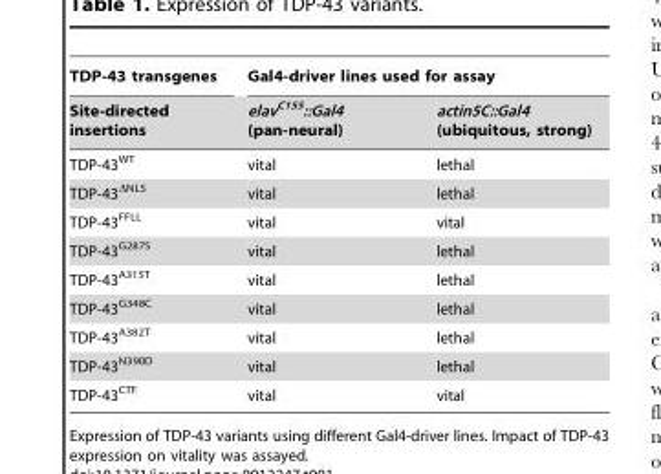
<table><thead><tr><td rowspan="2">TDP-43 transgenes Site-directed insertions</td><td colspan="2">Gal4-driver lines used for assay</td></tr><tr><td>elav<sup>C155</sup>::Gal4 (pan-neural)</td><td>actin5C::Gal4 (ubiquitous, strong)</td></tr></thead><tbody><tr><td>TDP-43<sup>WT</sup></td><td>vital</td><td>lethal</td></tr><tr><td>TDP-43<sup>ΔNLS</sup></td><td>vital</td><td>lethal</td></tr><tr><td>TDP-43<sup>FFLL</sup></td><td>vital</td><td>vital</td></tr><tr><td>TDP-43<sup>G287S</sup></td><td>vital</td><td>lethal</td></tr><tr><td>TDP-43<sup>A315T</sup></td><td>vital</td><td>lethal</td></tr><tr><td>TDP-43<sup>G348C</sup></td><td>vital</td><td>lethal</td></tr><tr><td>TDP-43<sup>A382T</sup></td><td>vital</td><td>lethal</td></tr><tr><td>TDP-43<sup>N390D</sup></td><td>vital</td><td>lethal</td></tr><tr><td>TDP-43<sup>CTF</sup></td><td>vital</td><td>vital</td></tr></tbody></table>